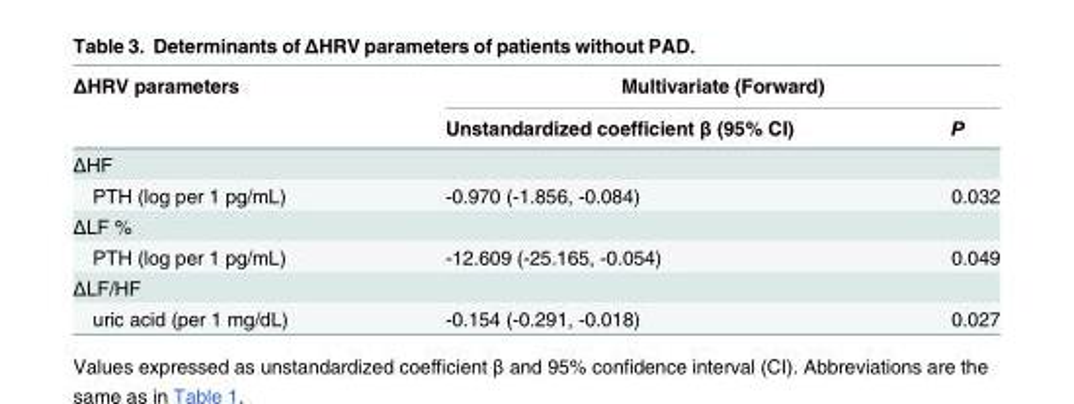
<table><thead><tr><td rowspan="2">ΔHRV parameters</td><td colspan="2">Multivariate (Forward)</td></tr><tr><td>Unstandardized coefficient β (95% CI)</td><td>P</td></tr></thead><tbody><tr><td colspan="3">ΔHF</td></tr><tr><td>PTH (log per 1 pg/mL)</td><td>-0.970 (-1.856, -0.084)</td><td>0.032</td></tr><tr><td colspan="3">ΔLF %</td></tr><tr><td>PTH (log per 1 pg/mL)</td><td>-12.609 (-25.165, -0.054)</td><td>0.049</td></tr><tr><td colspan="3">ΔLF/HF</td></tr><tr><td>uric acid (per 1 mg/dL)</td><td>-0.154 (-0.291, -0.018)</td><td>0.027</td></tr></tbody></table>